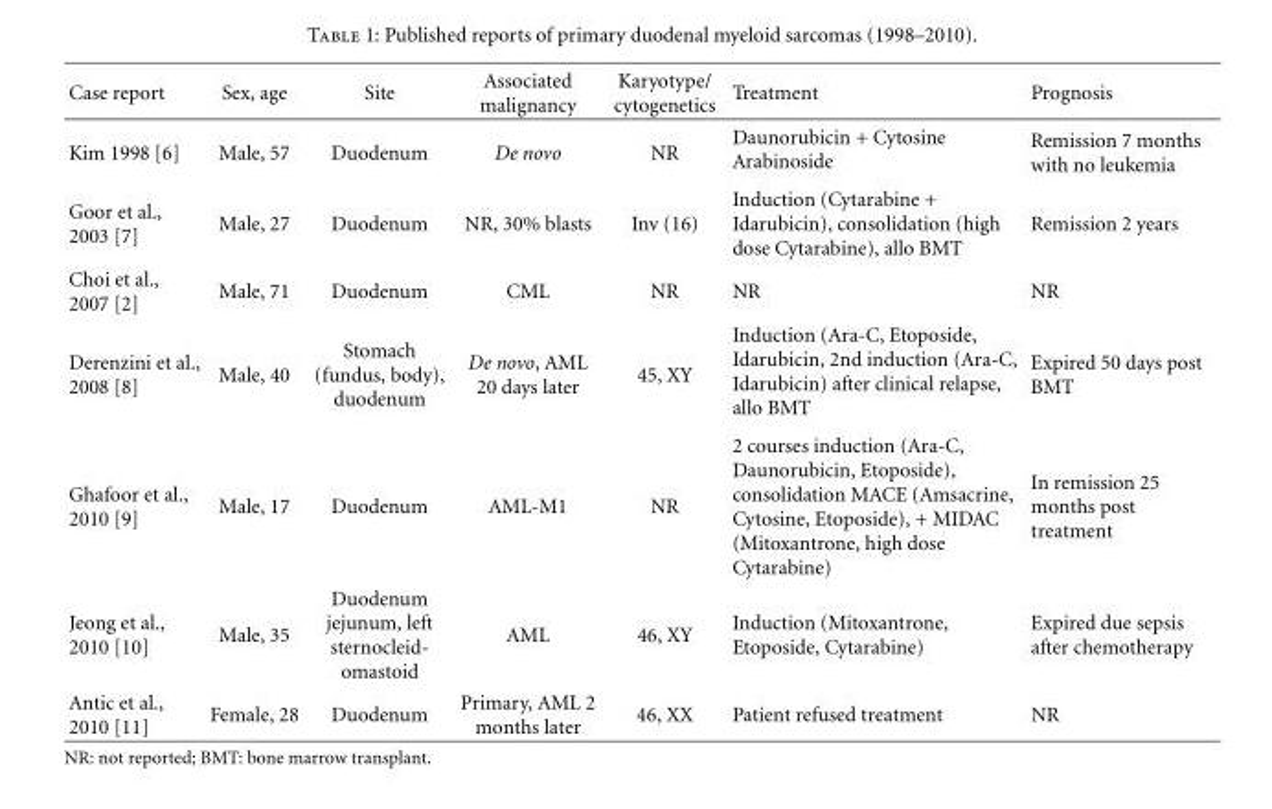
<table><thead><tr><td>Case report</td><td>Sex, age</td><td>Site</td><td>Associated malignancy</td><td>Karyotype/ cytogenetics</td><td>Treatment</td><td>Prognosis</td></tr></thead><tbody><tr><td>Kim 1998 [6]</td><td>Male, 57</td><td>Duodenum</td><td>De novo</td><td>NR</td><td>Daunorubicin + Cytosine Arabinoside</td><td>Remission 7 months with no leukemia</td></tr><tr><td>Goor et al., 2003 [7]</td><td>Male, 27</td><td>Duodenum</td><td>NR, 30% blasts</td><td>Inv (16)</td><td>Induction (Cytarabine + Idarubicin), consolidation (high dose Cytarabine), allo BMT</td><td>Remission 2 years</td></tr><tr><td>Choi et al., 2007 [2]</td><td>Male, 71</td><td>Duodenum</td><td>CML</td><td>NR</td><td>NR</td><td>NR</td></tr><tr><td>Derenzini et al., 2008 [8]</td><td>Male, 40</td><td>Stomach (fundus, body), duodenum</td><td>De novo, AML 20 days later</td><td>45, XY</td><td>Induction (Ara-C, Etoposide, Idarubicin, 2nd induction (Ara-C, Idarubicin) after clinical relapse, allo BMT</td><td>Expired 50 days post BMT</td></tr><tr><td>Ghafoor et al., 2010 [9]</td><td>Male, 17</td><td>Duodenum</td><td>AML-M1</td><td>NR</td><td>2 courses induction (Ara-C, Daunorubicin, Etoposide), consolidation MACE (Amsacrine, Cytosine, Etoposide), + MIDAC (Mitoxantrone, high dose Cytarabine)</td><td>In remission 25 months post treatment</td></tr><tr><td>Jeong et al., 2010 [10]</td><td>Male, 35</td><td>Duodenum jejunum, left sternocleid- omastoid</td><td>AML</td><td>46, XY</td><td>Induction (Mitoxantrone, Etoposide, Cytarabine)</td><td>Expired due sepsis after chemotherapy</td></tr><tr><td>Antic et al., 2010 [11]</td><td>Female, 28</td><td>Duodenum</td><td>Primary, AML 2 months later</td><td>46, XX</td><td>Patient refused treatment</td><td>NR</td></tr></tbody></table>